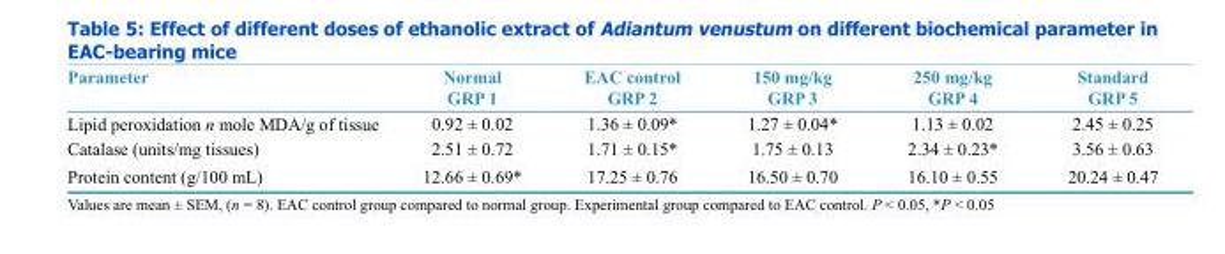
<table><thead><tr><td>Parameter</td><td>Normal GRP 1</td><td>EAC control GRP 2</td><td>150 mg/kg GRP 3</td><td>250 mg/kg GRP 4</td><td>Standard GRP 5</td></tr></thead><tbody><tr><td>Lipid peroxidation n mole MDA/g of tissue</td><td>0.92 ± 0.02</td><td>1.36 ± 0.09*</td><td>1.27 ± 0.04*</td><td>1.13 ± 0.02</td><td>2.45 ± 0.25</td></tr><tr><td>Catalase (units/mg tissues)</td><td>2.51 ± 0.72</td><td>1.71 ± 0.15*</td><td>1.75 ± 0.13</td><td>2.34 ± 0.23*</td><td>3.56 ± 0.63</td></tr><tr><td>Protein content (g/100 mL)</td><td>12.66 ± 0.69*</td><td>17.25 ± 0.76</td><td>16.50 ± 0.70</td><td>16.10 ± 0.55</td><td>20.24 ± 0.47</td></tr></tbody></table>